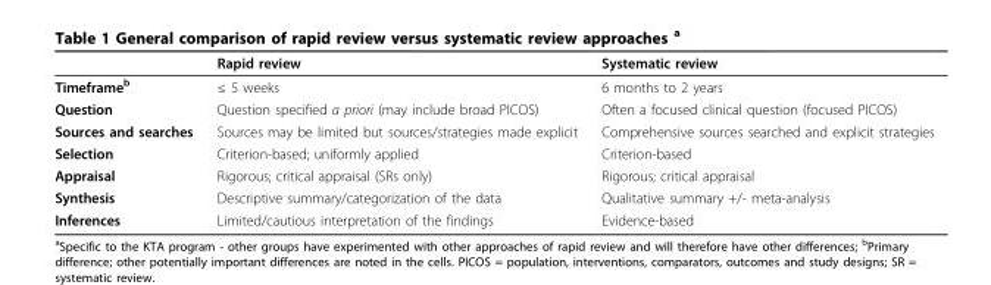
<table><thead><tr><td></td><td>Rapid review</td><td>Systematic review</td></tr></thead><tbody><tr><td>Timeframe<sup>b</sup></td><td>≤ 5 weeks</td><td>6 months to 2 years</td></tr><tr><td>Question</td><td>Question specified a priori (may include broad PICOS)</td><td>Often a focused clinical question (focused PICOS)</td></tr><tr><td>Sources and searches</td><td>Sources may be limited but sources/strategies made explicit</td><td>Comprehensive sources searched and explicit strategies</td></tr><tr><td>Selection</td><td>Criterion-based; uniformly applied</td><td>Criterion-based</td></tr><tr><td>Appraisal</td><td>Rigorous; critical appraisal (SRs only)</td><td>Rigorous; critical appraisal</td></tr><tr><td>Synthesis</td><td>Descriptive summary/categorization of the data</td><td>Qualitative summary +/- meta-analysis</td></tr><tr><td>Inferences</td><td>Limited/cautious interpretation of the findings</td><td>Evidence-based</td></tr></tbody></table>